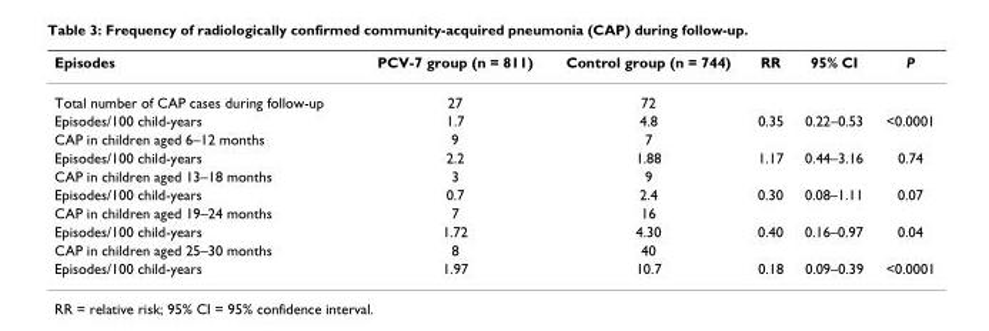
<table><thead><tr><td>Episodes</td><td>PCV-7 group (n = 811)</td><td>Control group (n = 744)</td><td>RR</td><td>95% CI</td><td>P</td></tr></thead><tbody><tr><td>Total number of CAP cases during follow-up</td><td>27</td><td>72</td><td></td><td></td><td></td></tr><tr><td>Episodes/100 child-years</td><td>1.7</td><td>4.8</td><td>0.35</td><td>0.22–0.53</td><td>&lt;0.0001</td></tr><tr><td>CAP in children aged 6–12 months</td><td>9</td><td>7</td><td></td><td></td><td></td></tr><tr><td>Episodes/100 child-years</td><td>2.2</td><td>1.88</td><td>1.17</td><td>0.44–3.16</td><td>0.74</td></tr><tr><td>CAP in children aged 13–18 months</td><td>3</td><td>9</td><td></td><td></td><td></td></tr><tr><td>Episodes/100 child-years</td><td>0.7</td><td>2.4</td><td>0.30</td><td>0.08–1.11</td><td>0.07</td></tr><tr><td>CAP in children aged 19–24 months</td><td>7</td><td>16</td><td></td><td></td><td></td></tr><tr><td>Episodes/100 child-years</td><td>1.72</td><td>4.30</td><td>0.40</td><td>0.16–0.97</td><td>0.04</td></tr><tr><td>CAP in children aged 25–30 months</td><td>8</td><td>40</td><td></td><td></td><td></td></tr><tr><td>Episodes/100 child-years</td><td>1.97</td><td>10.7</td><td>0.18</td><td>0.09–0.39</td><td>&lt;0.0001</td></tr></tbody></table>